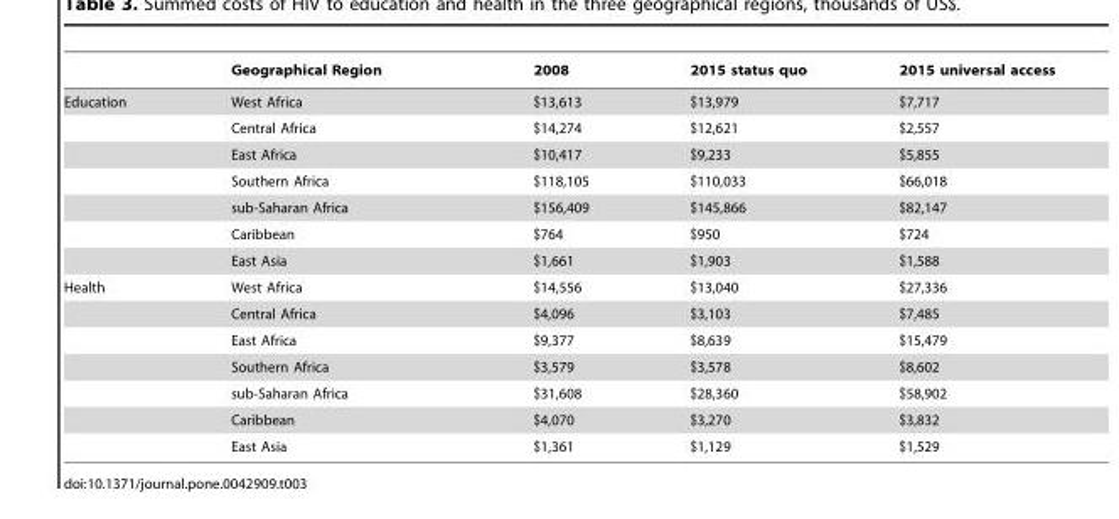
<table><thead><tr><td></td><td>Geographical Region</td><td>2008</td><td>2015 status quo</td><td>2015 universal access</td></tr></thead><tbody><tr><td rowspan="7">Education</td><td>West Africa</td><td>$13,613</td><td>$13,979</td><td>$7,717</td></tr><tr><td>Central Africa</td><td>$14,274</td><td>$12,621</td><td>$2,557</td></tr><tr><td>East Africa</td><td>$10,417</td><td>$9,233</td><td>$5,855</td></tr><tr><td>Southern Africa</td><td>$118,105</td><td>$110,033</td><td>$66,018</td></tr><tr><td>sub-Saharan Africa</td><td>$156,409</td><td>$145,866</td><td>$82,147</td></tr><tr><td>Caribbean</td><td>$764</td><td>$950</td><td>$724</td></tr><tr><td>East Asia</td><td>$1,661</td><td>$1,903</td><td>$1,588</td></tr><tr><td rowspan="7">Health</td><td>West Africa</td><td>$14,556</td><td>$13,040</td><td>$27,336</td></tr><tr><td>Central Africa</td><td>$4,096</td><td>$3,103</td><td>$7,485</td></tr><tr><td>East Africa</td><td>$9,377</td><td>$8,639</td><td>$15,479</td></tr><tr><td>Southern Africa</td><td>$3,579</td><td>$3,578</td><td>$8,602</td></tr><tr><td>sub-Saharan Africa</td><td>$31,608</td><td>$28,360</td><td>$58,902</td></tr><tr><td>Caribbean</td><td>$4,070</td><td>$3,270</td><td>$3,832</td></tr><tr><td>East Asia</td><td>$1,361</td><td>$1,129</td><td>$1,529</td></tr></tbody></table>